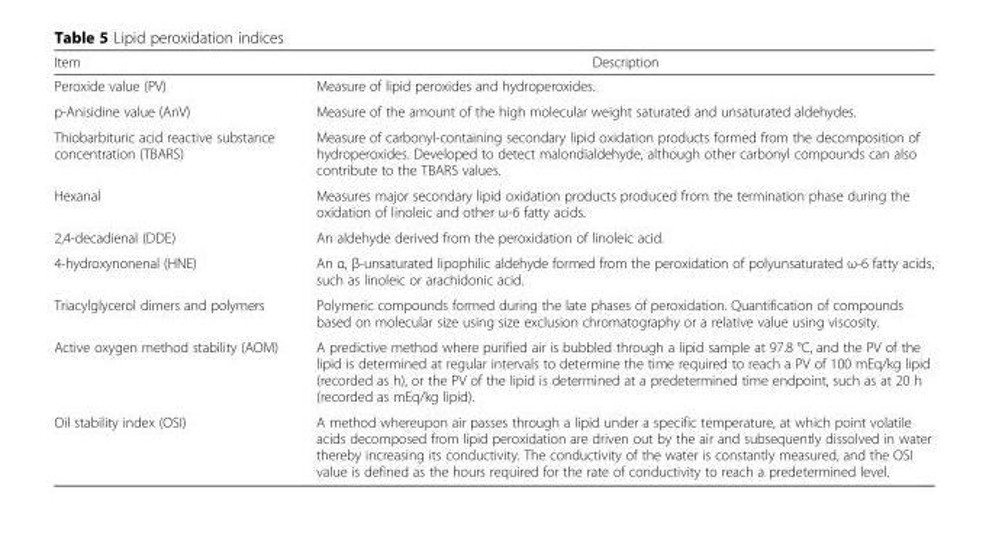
<table><thead><tr><td>Item</td><td>Description</td></tr></thead><tbody><tr><td>Peroxide value (PV)</td><td>Measure of lipid peroxides and hydroperoxides.</td></tr><tr><td>p-Anisidine value (AnV)</td><td>Measure of the amount of the high molecular weight saturated and unsaturated aldehydes.</td></tr><tr><td>Thiobarbituric acid reactive substance concentration (TBARS)</td><td>Measure of carbonyl-containing secondary lipid oxidation products formed from the decomposition of hydroperoxides. Developed to detect malondialdehyde, although other carbonyl compounds can also contribute to the TBARS values.</td></tr><tr><td>Hexanal</td><td>Measures major secondary lipid oxidation products produced from the termination phase during the oxidation of linoleic and other ω-6 fatty acids.</td></tr><tr><td>2,4-decadienal (DDE)</td><td>An aldehyde derived from the peroxidation of linoleic acid.</td></tr><tr><td>4-hydroxynonenal (HNE)</td><td>An α, β-unsaturated lipophilic aldehyde formed from the peroxidation of polyunsaturated ω-6 fatty acids, such as linoleic or arachidonic acid.</td></tr><tr><td>Triacylglycerol dimers and polymers</td><td>Polymeric compounds formed during the late phases of peroxidation. Quantification of compounds based on molecular size using size exclusion chromatography or a relative value using viscosity.</td></tr><tr><td>Active oxygen method stability (AOM)</td><td>A predictive method where purified air is bubbled through a lipid sample at 97.8 °C, and the PV of the lipid is determined at regular intervals to determine the time required to reach a PV of 100 mEq/kg lipid (recorded as h), or the PV of the lipid is determined at a predetermined time endpoint, such as at 20 h (recorded as mEq/kg lipid).</td></tr><tr><td>Oil stability index (OSI)</td><td>A method whereupon air passes through a lipid under a specific temperature, at which point volatile acids decomposed from lipid peroxidation are driven out by the air and subsequently dissolved in water thereby increasing its conductivity. The conductivity of the water is constantly measured, and the OSI value is defined as the hours required for the rate of conductivity to reach a predetermined level.</td></tr></tbody></table>